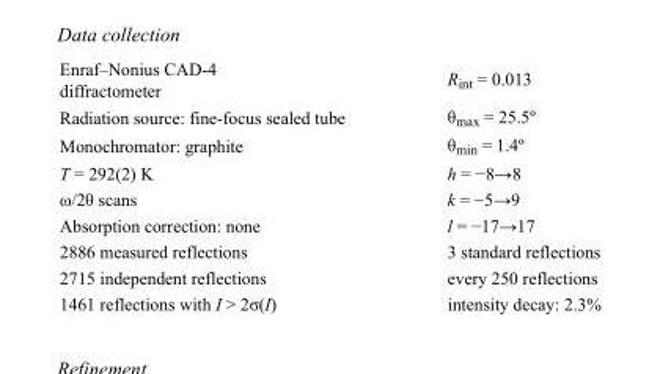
<table><tbody><tr><td>Enraf–Nonius CAD-4 diffractometer</td><td>R<sub>int</sub> = 0.013</td></tr><tr><td>Radiation source: fine-focus sealed tube</td><td>θ<sub>max</sub> = 25.5º</td></tr><tr><td>Monochromator: graphite</td><td>θ<sub>min</sub> = 1.4º</td></tr><tr><td>T = 292(2) K</td><td>h = −8→8</td></tr><tr><td>ω/2θ scans</td><td>k = −5→9</td></tr><tr><td>Absorption correction: none</td><td>l = −17→17</td></tr><tr><td>2886 measured reflections</td><td>3 standard reflections</td></tr><tr><td>2715 independent reflections</td><td>every 250 reflections</td></tr><tr><td>1461 reflections with I &gt; 2σ(I)</td><td>intensity decay: 2.3%</td></tr></tbody></table>